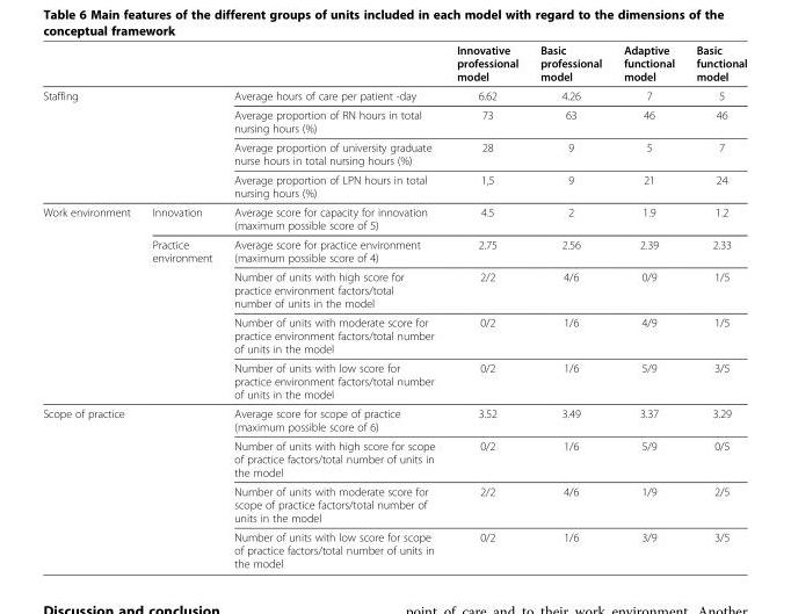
<table><thead><tr><td></td><td></td><td></td><td>Innovative professional model</td><td>Basic professional model</td><td>Adaptive functional model</td><td>Basic functional model</td></tr></thead><tbody><tr><td colspan="2">Staffing</td><td>Average hours of care per patient -day</td><td>6.62</td><td>4.26</td><td>7</td><td>5</td></tr><tr><td></td><td></td><td>Average proportion of RN hours in total nursing hours (%)</td><td>73</td><td>63</td><td>46</td><td>46</td></tr><tr><td></td><td></td><td>Average proportion of university graduate nurse hours in total nursing hours (%)</td><td>28</td><td>9</td><td>5</td><td>7</td></tr><tr><td></td><td></td><td>Average proportion of LPN hours in total nursing hours (%)</td><td>1,5</td><td>9</td><td>21</td><td>24</td></tr><tr><td rowspan="9">Work environment Scope of practice</td><td>Innovation</td><td>Average score for capacity for innovation (maximum possible score of 5)</td><td>4.5</td><td>2</td><td>1.9</td><td>1.2</td></tr><tr><td>Practice environment</td><td>Average score for practice environment (maximum possible score of 4)</td><td>2.75</td><td>2.56</td><td>2.39</td><td>2.33</td></tr><tr><td></td><td>Number of units with high score for practice environment factors/total number of units in the model</td><td>2/2</td><td>4/6</td><td>0/9</td><td>1/5</td></tr><tr><td></td><td>Number of units with moderate score for practice environment factors/total number of units in the model</td><td>0/2</td><td>1/6</td><td>4/9</td><td>1/5</td></tr><tr><td></td><td>Number of units with low score for practice environment factors/total number of units in the model</td><td>0/2</td><td>1/6</td><td>5/9</td><td>3/5</td></tr><tr><td></td><td>Average score for scope of practice (maximum possible score of 6)</td><td>3.52</td><td>3.49</td><td>3.37</td><td>3.29</td></tr><tr><td></td><td>Number of units with high score for scope of practice factors/total number of units in the model</td><td>0/2</td><td>1/6</td><td>5/9</td><td>0/5</td></tr><tr><td></td><td>Number of units with moderate score for scope of practice factors/total number of units in the model</td><td>2/2</td><td>4/6</td><td>1/9</td><td>2/5</td></tr><tr><td></td><td>Number of units with low score for scope of practice factors/total number of units in the model</td><td>0/2</td><td>1/6</td><td>3/9</td><td>3/5</td></tr></tbody></table>